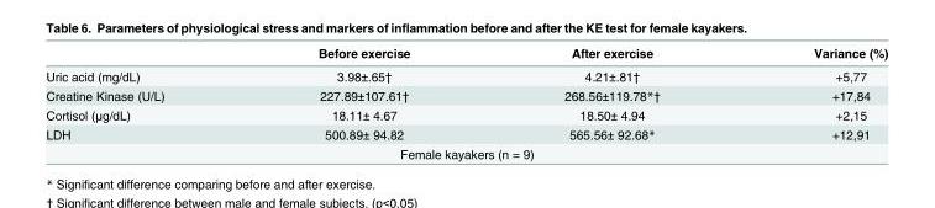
<table><thead><tr><td></td><td>Before exercise</td><td>After exercise</td><td>Variance (%)</td></tr></thead><tbody><tr><td>Uric acid (mg/dL)</td><td>3.98±.65†</td><td>4.21±.81†</td><td>+5,77</td></tr><tr><td>Creatine Kinase (U/L)</td><td>227.89±107.61†</td><td>268.56±119.78*†</td><td>+17,84</td></tr><tr><td>Cortisol (μg/dL)</td><td>18.11± 4.67</td><td>18.50± 4.94</td><td>+2,15</td></tr><tr><td>LDH</td><td>500.89± 94.82</td><td>565.56± 92.68*</td><td>+12,91</td></tr><tr><td colspan="4">Female kayakers (n = 9)</td></tr></tbody></table>